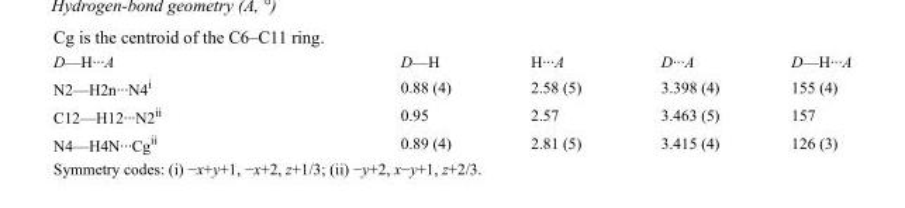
<table><tbody><tr><td>D—H···A</td><td>D—H</td><td>H···A</td><td>D···A</td><td>D—H···A</td></tr><tr><td>N2—H2n···N4<sup>i</sup></td><td>0.88 (4)</td><td>2.58 (5)</td><td>3.398 (4)</td><td>155 (4)</td></tr><tr><td>C12—H12···N2<sup>ii</sup></td><td>0.95</td><td>2.57</td><td>3.463 (5)</td><td>157</td></tr><tr><td>N4—H4N···Cg<sup>ii</sup></td><td>0.89 (4)</td><td>2.81 (5)</td><td>3.415 (4)</td><td>126 (3)</td></tr></tbody></table>